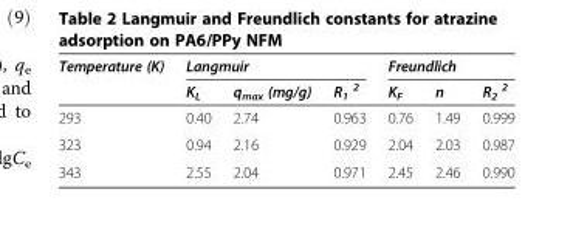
<table><thead><tr><td rowspan="2">Temperature (K)</td><td colspan="3">Langmuir</td><td colspan="3">Freundlich</td></tr><tr><td>K<sub>L</sub></td><td>q<sub>max</sub> (mg/g)</td><td>R<sub>1</sub> <sup>2</sup></td><td>K<sub>F</sub></td><td>n</td><td>R<sub>2</sub> <sup>2</sup></td></tr></thead><tbody><tr><td>293</td><td>0.40</td><td>2.74</td><td>0.963</td><td>0.76</td><td>1.49</td><td>0.999</td></tr><tr><td>323</td><td>0.94</td><td>2.16</td><td>0.929</td><td>2.04</td><td>2.03</td><td>0.987</td></tr><tr><td>343</td><td>2.55</td><td>2.04</td><td>0.971</td><td>2.45</td><td>2.46</td><td>0.990</td></tr></tbody></table>